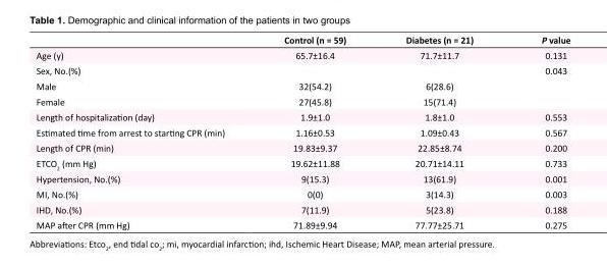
<table><thead><tr><td></td><td>Control (n = 59)</td><td>Diabetes (n = 21)</td><td>P value</td></tr></thead><tbody><tr><td>Age (y)</td><td>65.7±16.4</td><td>71.7±11.7</td><td>0.131</td></tr><tr><td>Sex, No.(%)</td><td></td><td></td><td>0.043</td></tr><tr><td>Male</td><td>32(54.2)</td><td>6(28.6)</td><td></td></tr><tr><td>Female</td><td>27(45.8)</td><td>15(71.4)</td><td></td></tr><tr><td>Length of hospitalization (day)</td><td>1.9±1.0</td><td>1.8±1.0</td><td>0.553</td></tr><tr><td>Estimated time from arrest to starting CPR (min)</td><td>1.16±0.53</td><td>1.09±0.43</td><td>0.567</td></tr><tr><td>Length of CPR (min)</td><td>19.83±9.37</td><td>22.85±8.74</td><td>0.200</td></tr><tr><td>ETCO<sub>2</sub> (mm Hg)</td><td>19.62±11.88</td><td>20.71±14.11</td><td>0.733</td></tr><tr><td>Hypertension, No.(%)</td><td>9(15.3)</td><td>13(61.9)</td><td>0.001</td></tr><tr><td>MI, No.(%)</td><td>0(0)</td><td>3(14.3)</td><td>0.003</td></tr><tr><td>IHD, No.(%)</td><td>7(11.9)</td><td>5(23.8)</td><td>0.188</td></tr><tr><td>MAP after CPR (mm Hg)</td><td>71.89±9.94</td><td>77.77±25.71</td><td>0.275</td></tr></tbody></table>